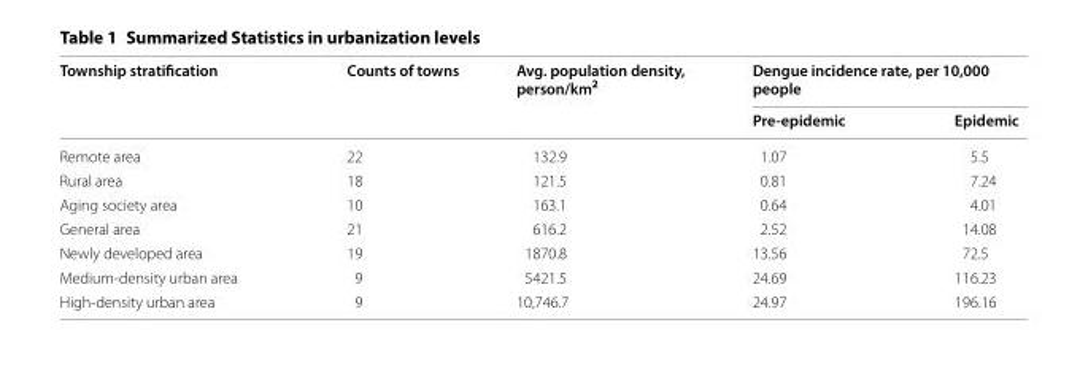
<table><thead><tr><td rowspan="2">Township stratification</td><td rowspan="2">Counts of towns</td><td rowspan="2">Avg. population density, person/km<sup>2</sup></td><td colspan="2">Dengue incidence rate, per 10,000 people</td></tr><tr><td>Pre-epidemic</td><td>Epidemic</td></tr></thead><tbody><tr><td>Remote area</td><td>22</td><td>132.9</td><td>1.07</td><td>5.5</td></tr><tr><td>Rural area</td><td>18</td><td>121.5</td><td>0.81</td><td>7.24</td></tr><tr><td>Aging society area</td><td>10</td><td>163.1</td><td>0.64</td><td>4.01</td></tr><tr><td>General area</td><td>21</td><td>616.2</td><td>2.52</td><td>14.08</td></tr><tr><td>Newly developed area</td><td>19</td><td>1870.8</td><td>13.56</td><td>72.5</td></tr><tr><td>Medium‑density urban area</td><td>9</td><td>5421.5</td><td>24.69</td><td>116.23</td></tr><tr><td>High‑density urban area</td><td>9</td><td>10,746.7</td><td>24.97</td><td>196.16</td></tr></tbody></table>